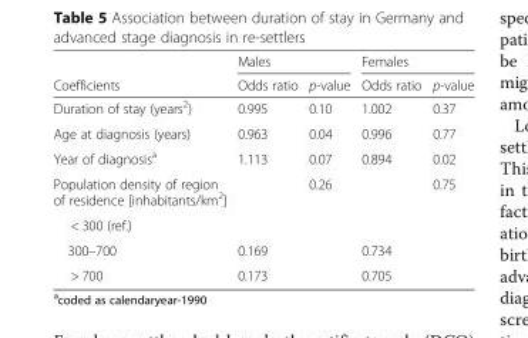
<table><thead><tr><td rowspan="2">Coefficients</td><td colspan="2">Males</td><td colspan="2">Females</td></tr><tr><td>Odds ratio</td><td>p-value</td><td>Odds ratio</td><td>p-value</td></tr></thead><tbody><tr><td>Duration of stay (years<sup>2</sup>)</td><td>0.995</td><td>0.10</td><td>1.002</td><td>0.37</td></tr><tr><td>Age at diagnosis (years)</td><td>0.963</td><td>0.04</td><td>0.996</td><td>0.77</td></tr><tr><td>Year of diagnosis<sup>a</sup></td><td>1.113</td><td>0.07</td><td>0.894</td><td>0.02</td></tr><tr><td>Population density of region of residence [inhabitants/km<sup>2</sup>]</td><td></td><td>0.26</td><td></td><td>0.75</td></tr><tr><td colspan="5">&lt; 300 (ref.)</td></tr><tr><td>300–700</td><td>0.169</td><td></td><td>0.734</td><td></td></tr><tr><td>&gt; 700</td><td>0.173</td><td></td><td>0.705</td><td></td></tr></tbody></table>